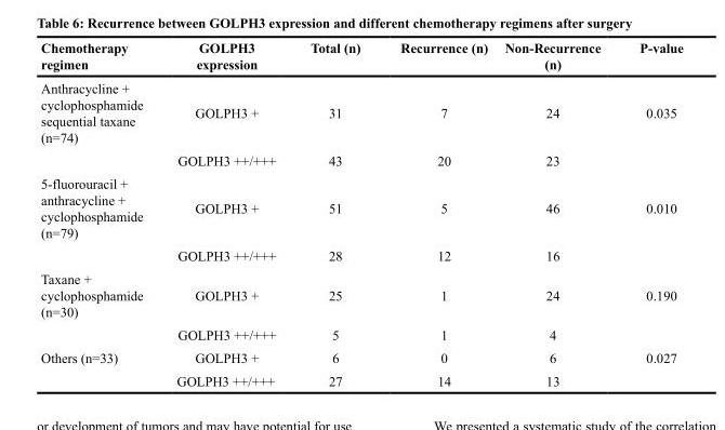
<table><thead><tr><td>Chemotherapy regimen</td><td>GOLPH3 expression</td><td>Total (n)</td><td>Recurrence (n)</td><td>Non-Recurrence (n)</td><td>P-value</td></tr></thead><tbody><tr><td rowspan="2">Anthracycline + cyclophosphamide sequential taxane (n=74)</td><td>GOLPH3 +</td><td>31</td><td>7</td><td>24</td><td>0.035</td></tr><tr><td>GOLPH3 ++/+++</td><td>43</td><td>20</td><td>23</td><td></td></tr><tr><td rowspan="2">5-fluorouracil + anthracycline + cyclophosphamide (n=79)</td><td>GOLPH3 +</td><td>51</td><td>5</td><td>46</td><td>0.010</td></tr><tr><td>GOLPH3 ++/+++</td><td>28</td><td>12</td><td>16</td><td></td></tr><tr><td rowspan="2">Taxane + cyclophosphamide (n=30)</td><td>GOLPH3 +</td><td>25</td><td>1</td><td>24</td><td>0.190</td></tr><tr><td>GOLPH3 ++/+++</td><td>5</td><td>1</td><td>4</td><td></td></tr><tr><td rowspan="2">Others (n=33)</td><td>GOLPH3 +</td><td>6</td><td>0</td><td>6</td><td>0.027</td></tr><tr><td>GOLPH3 ++/+++</td><td>27</td><td>14</td><td>13</td><td></td></tr></tbody></table>